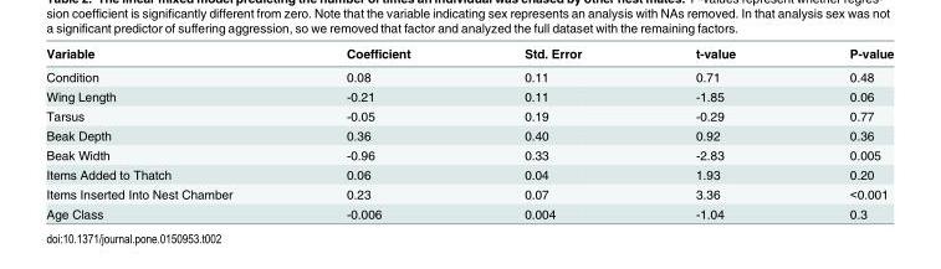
<table><thead><tr><td>Variable</td><td>Coefficient</td><td>Std. Error</td><td>t-value</td><td>P-value</td></tr></thead><tbody><tr><td>Condition</td><td>0.08</td><td>0.11</td><td>0.71</td><td>0.48</td></tr><tr><td>Wing Length</td><td>-0.21</td><td>0.11</td><td>-1.85</td><td>0.06</td></tr><tr><td>Tarsus</td><td>-0.05</td><td>0.19</td><td>-0.29</td><td>0.77</td></tr><tr><td>Beak Depth</td><td>0.36</td><td>0.40</td><td>0.92</td><td>0.36</td></tr><tr><td>Beak Width</td><td>-0.96</td><td>0.33</td><td>-2.83</td><td>0.005</td></tr><tr><td>Items Added to Thatch</td><td>0.06</td><td>0.04</td><td>1.93</td><td>0.20</td></tr><tr><td>Items Inserted Into Nest Chamber</td><td>0.23</td><td>0.07</td><td>3.36</td><td>&lt;0.001</td></tr><tr><td>Age Class</td><td>-0.006</td><td>0.004</td><td>-1.04</td><td>0.3</td></tr></tbody></table>